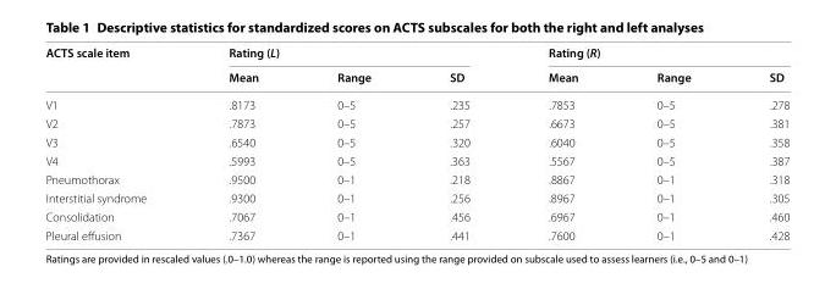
<table><thead><tr><td rowspan="2">ACTS scale item</td><td colspan="3">Rating (L)</td><td colspan="3">Rating (R)</td></tr><tr><td>Mean</td><td>Range</td><td>SD</td><td>Mean</td><td>Range</td><td>SD</td></tr></thead><tbody><tr><td>V1</td><td>.8173</td><td>0–5</td><td>.235</td><td>.7853</td><td>0–5</td><td>.278</td></tr><tr><td>V2</td><td>.7873</td><td>0–5</td><td>.257</td><td>.6673</td><td>0–5</td><td>.381</td></tr><tr><td>V3</td><td>.6540</td><td>0–5</td><td>.320</td><td>.6040</td><td>0–5</td><td>.358</td></tr><tr><td>V4</td><td>.5993</td><td>0–5</td><td>.363</td><td>.5567</td><td>0–5</td><td>.387</td></tr><tr><td>Pneumothorax</td><td>.9500</td><td>0–1</td><td>.218</td><td>.8867</td><td>0–1</td><td>.318</td></tr><tr><td>Interstitial syndrome</td><td>.9300</td><td>0–1</td><td>.256</td><td>.8967</td><td>0–1</td><td>.305</td></tr><tr><td>Consolidation</td><td>.7067</td><td>0–1</td><td>.456</td><td>.6967</td><td>0–1</td><td>.460</td></tr><tr><td>Pleural effusion</td><td>.7367</td><td>0–1</td><td>.441</td><td>.7600</td><td>0–1</td><td>.428</td></tr></tbody></table>